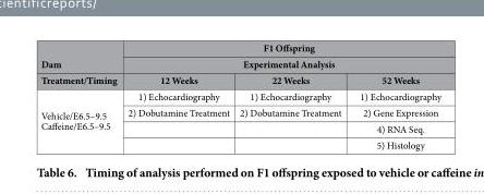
<table><thead><tr><td rowspan="3">Dam Treatment/Timing</td><td rowspan="2" colspan="3">F1 Offspring Experimental Analysis</td></tr><tr></tr><tr><td>12 Weeks</td><td>22 Weeks</td><td>52 Weeks</td></tr></thead><tbody><tr><td rowspan="4">Vehicle/E6.5–9.5 Caffeine/E6.5–9.5</td><td>1) Echocardiography</td><td>1) Echocardiography</td><td>1) Echocardiography</td></tr><tr><td>2) Dobutamine Treatment</td><td>2) Dobutamine Treatment</td><td>2) Gene Expression</td></tr><tr><td></td><td></td><td>4) RNA Seq.</td></tr><tr><td></td><td></td><td>5) Histology</td></tr></tbody></table>